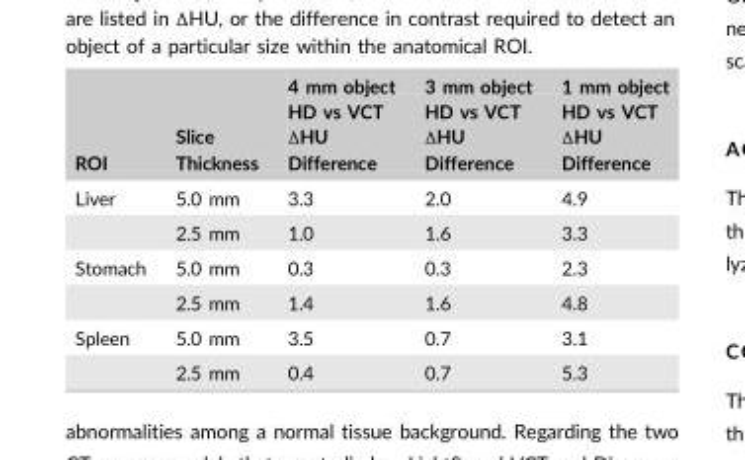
<table><thead><tr><td rowspan="3">ROI</td><td rowspan="3">Slice Thickness</td><td rowspan="3">4 mm object HD vs VCT ΔHU Difference</td><td rowspan="3">3 mm object HD vs VCT ΔHU Difference</td><td rowspan="3">1 mm object HD vs VCT ΔHU Difference</td></tr><tr></tr><tr></tr></thead><tbody><tr><td rowspan="2">Liver</td><td>5.0 mm</td><td>3.3</td><td>2.0</td><td>4.9</td></tr><tr><td>2.5 mm</td><td>1.0</td><td>1.6</td><td>3.3</td></tr><tr><td rowspan="2">Stomach</td><td>5.0 mm</td><td>0.3</td><td>0.3</td><td>2.3</td></tr><tr><td>2.5 mm</td><td>1.4</td><td>1.6</td><td>4.8</td></tr><tr><td rowspan="2">Spleen</td><td>5.0 mm</td><td>3.5</td><td>0.7</td><td>3.1</td></tr><tr><td>2.5 mm</td><td>0.4</td><td>0.7</td><td>5.3</td></tr></tbody></table>